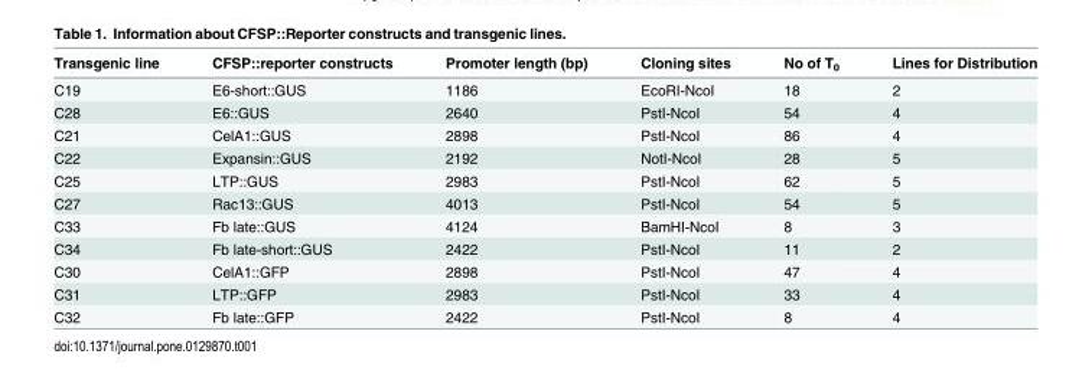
<table><thead><tr><td>Transgenic line</td><td>CFSP::reporter constructs</td><td>Promoter length (bp)</td><td>Cloning sites</td><td>No of T<sub>0</sub></td><td>Lines for Distribution</td></tr></thead><tbody><tr><td>C19</td><td>E6-short::GUS</td><td>1186</td><td>EcoRI-NcoI</td><td>18</td><td>2</td></tr><tr><td>C28</td><td>E6::GUS</td><td>2640</td><td>PstI-NcoI</td><td>54</td><td>4</td></tr><tr><td>C21</td><td>CelA1::GUS</td><td>2898</td><td>PstI-NcoI</td><td>86</td><td>4</td></tr><tr><td>C22</td><td>Expansin::GUS</td><td>2192</td><td>NotI-NcoI</td><td>28</td><td>5</td></tr><tr><td>C25</td><td>LTP::GUS</td><td>2983</td><td>PstI-NcoI</td><td>62</td><td>5</td></tr><tr><td>C27</td><td>Rac13::GUS</td><td>4013</td><td>PstI-NcoI</td><td>54</td><td>5</td></tr><tr><td>C33</td><td>Fb late::GUS</td><td>4124</td><td>BamHI-NcoI</td><td>8</td><td>3</td></tr><tr><td>C34</td><td>Fb late-short::GUS</td><td>2422</td><td>PstI-NcoI</td><td>11</td><td>2</td></tr><tr><td>C30</td><td>CelA1::GFP</td><td>2898</td><td>PstI-NcoI</td><td>47</td><td>4</td></tr><tr><td>C31</td><td>LTP::GFP</td><td>2983</td><td>PstI-NcoI</td><td>33</td><td>4</td></tr><tr><td>C32</td><td>Fb late::GFP</td><td>2422</td><td>PstI-NcoI</td><td>8</td><td>4</td></tr></tbody></table>